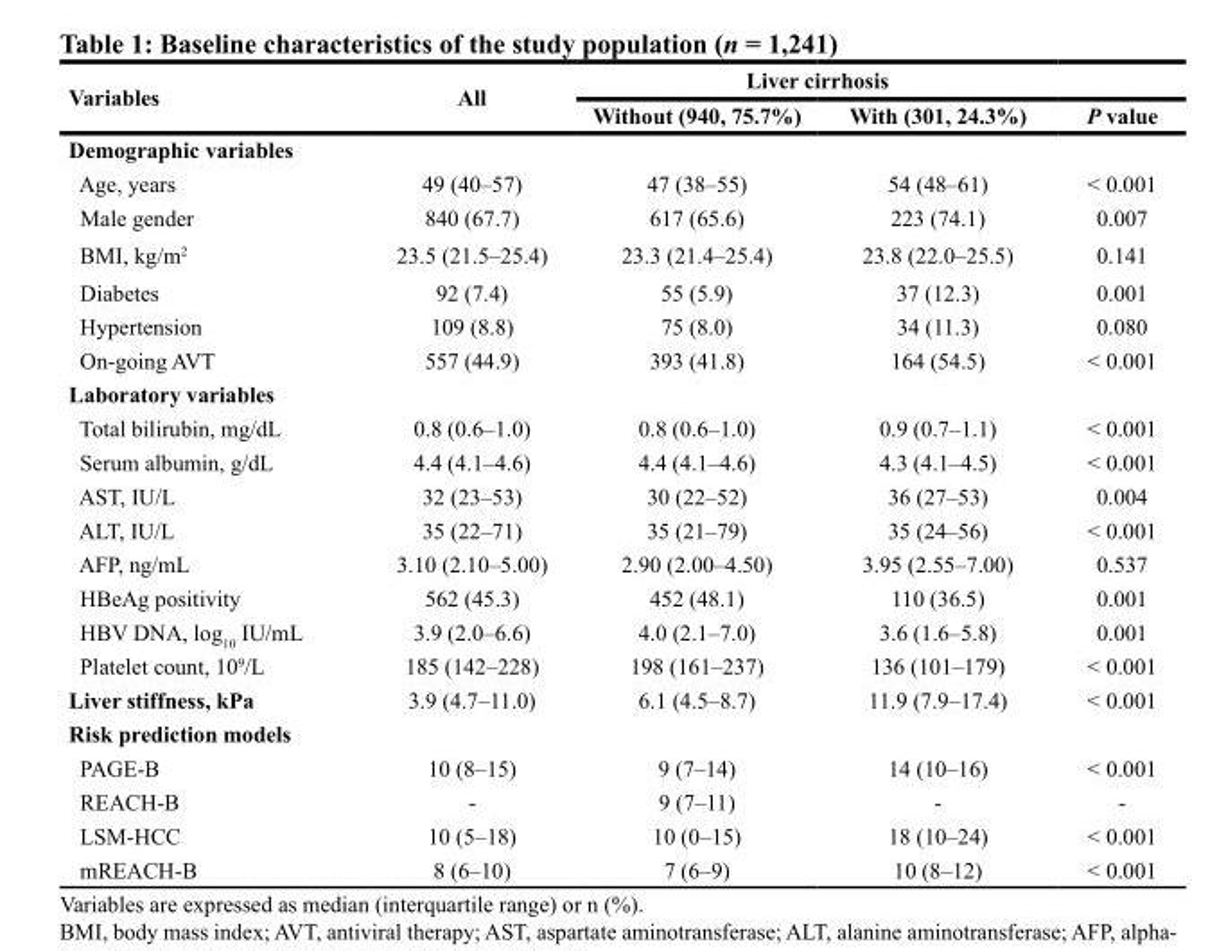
<table><thead><tr><td rowspan="2">Variables</td><td rowspan="2">All</td><td colspan="3">Liver cirrhosis</td></tr><tr><td>Without (940, 75.7%)</td><td>With (301, 24.3%)</td><td>P value</td></tr></thead><tbody><tr><td colspan="5">Demographic variables</td></tr><tr><td>Age, years</td><td>49 (40–57)</td><td>47 (38–55)</td><td>54 (48–61)</td><td>&lt; 0.001</td></tr><tr><td>Male gender</td><td>840 (67.7)</td><td>617 (65.6)</td><td>223 (74.1)</td><td>0.007</td></tr><tr><td>BMI, kg/m<sup>2</sup></td><td>23.5 (21.5–25.4)</td><td>23.3 (21.4–25.4)</td><td>23.8 (22.0–25.5)</td><td>0.141</td></tr><tr><td>Diabetes</td><td>92 (7.4)</td><td>55 (5.9)</td><td>37 (12.3)</td><td>0.001</td></tr><tr><td>Hypertension</td><td>109 (8.8)</td><td>75 (8.0)</td><td>34 (11.3)</td><td>0.080</td></tr><tr><td>On-going AVT</td><td>557 (44.9)</td><td>393 (41.8)</td><td>164 (54.5)</td><td>&lt; 0.001</td></tr><tr><td colspan="5">Laboratory variables</td></tr><tr><td>Total bilirubin, mg/dL</td><td>0.8 (0.6–1.0)</td><td>0.8 (0.6–1.0)</td><td>0.9 (0.7–1.1)</td><td>&lt; 0.001</td></tr><tr><td>Serum albumin, g/dL</td><td>4.4 (4.1–4.6)</td><td>4.4 (4.1–4.6)</td><td>4.3 (4.1–4.5)</td><td>&lt; 0.001</td></tr><tr><td>AST, IU/L</td><td>32 (23–53)</td><td>30 (22–52)</td><td>36 (27–53)</td><td>0.004</td></tr><tr><td>ALT, IU/L</td><td>35 (22–71)</td><td>35 (21–79)</td><td>35 (24–56)</td><td>&lt; 0.001</td></tr><tr><td>AFP, ng/mL</td><td>3.10 (2.10–5.00)</td><td>2.90 (2.00–4.50)</td><td>3.95 (2.55–7.00)</td><td>0.537</td></tr><tr><td>HBeAg positivity</td><td>562 (45.3)</td><td>452 (48.1)</td><td>110 (36.5)</td><td>0.001</td></tr><tr><td>HBV DNA, log<sub>10</sub> IU/mL</td><td>3.9 (2.0–6.6)</td><td>4.0 (2.1–7.0)</td><td>3.6 (1.6–5.8)</td><td>0.001</td></tr><tr><td>Platelet count, 10<sup>9</sup>/L</td><td>185 (142–228)</td><td>198 (161–237)</td><td>136 (101–179)</td><td>&lt; 0.001</td></tr><tr><td>Liver stiffness, kPa</td><td>3.9 (4.7–11.0)</td><td>6.1 (4.5–8.7)</td><td>11.9 (7.9–17.4)</td><td>&lt; 0.001</td></tr><tr><td colspan="5">Risk prediction models</td></tr><tr><td>PAGE-B</td><td>10 (8–15)</td><td>9 (7–14)</td><td>14 (10–16)</td><td>&lt; 0.001</td></tr><tr><td>REACH-B</td><td>-</td><td>9 (7–11)</td><td>-</td><td>-</td></tr><tr><td>LSM-HCC</td><td>10 (5–18)</td><td>10 (0–15)</td><td>18 (10–24)</td><td>&lt; 0.001</td></tr><tr><td>mREACH-B</td><td>8 (6–10)</td><td>7 (6–9)</td><td>10 (8–12)</td><td>&lt; 0.001</td></tr></tbody></table>